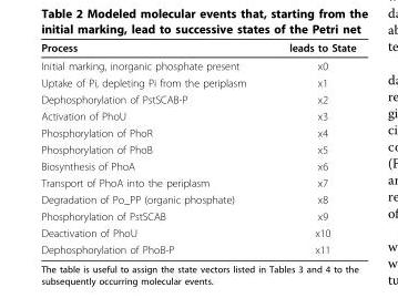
<table><thead><tr><td>Process</td><td>leads to State</td></tr></thead><tbody><tr><td>Initial marking, inorganic phosphate present</td><td>x0</td></tr><tr><td>Uptake of Pi, depleting Pi from the periplasm</td><td>x1</td></tr><tr><td>Dephosphorylation of PstSCAB-P</td><td>x2</td></tr><tr><td>Activation of PhoU</td><td>x3</td></tr><tr><td>Phosphorylation of PhoR</td><td>x4</td></tr><tr><td>Phosphorylation of PhoB</td><td>x5</td></tr><tr><td>Biosynthesis of PhoA</td><td>x6</td></tr><tr><td>Transport of PhoA into the periplasm</td><td>x7</td></tr><tr><td>Degradation of Po_PP (organic phosphate)</td><td>x8</td></tr><tr><td>Phosphorylation of PstSCAB</td><td>x9</td></tr><tr><td>Deactivation of PhoU</td><td>x10</td></tr><tr><td>Dephosphorylation of PhoB-P</td><td>x11</td></tr></tbody></table>